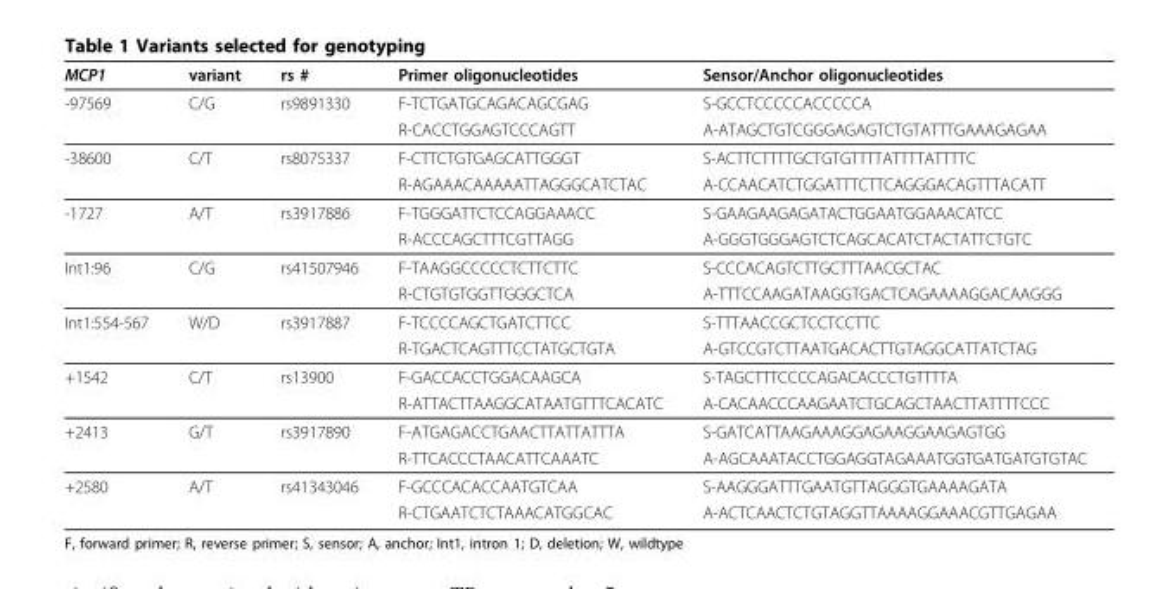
<table><thead><tr><td>MCP1</td><td>variant</td><td>rs #</td><td>Primer oligonucleotides</td><td>Sensor/Anchor oligonucleotides</td></tr></thead><tbody><tr><td rowspan="2">-97569</td><td>C/G</td><td>rs9891330</td><td>F-TCTGATGCAGACAGCGAG</td><td>S-GCCTCCCCCACCCCCA</td></tr><tr><td></td><td></td><td>R-CACCTGGAGTCCCAGTT</td><td>A-ATAGCTGTCGGGAGAGTCTGTATTTGAAAGAGAA</td></tr><tr><td rowspan="2">-38600</td><td>C/T</td><td>rs8075337</td><td>F-CTTCTGTGAGCATTGGGT</td><td>S-ACTTCTTTTGCTGTGTTTTATTTTATTTTC</td></tr><tr><td></td><td></td><td>R-AGAAACAAAAATTAGGGCATCTAC</td><td>A-CCAACATCTGGATTTCTTCAGGGACAGTTTACATT</td></tr><tr><td rowspan="2">-1727</td><td>A/T</td><td>rs3917886</td><td>F-TGGGATTCTCCAGGAAACC</td><td>S-GAAGAAGAGATACTGGAATGGAAACATCC</td></tr><tr><td></td><td></td><td>R-ACCCAGCTTTCGTTAGG</td><td>A-GGGTGGGAGTCTCAGCACATCTACTATTCTGTC</td></tr><tr><td rowspan="2">Int1:96</td><td>C/G</td><td>rs41507946</td><td>F-TAAGGCCCCCTCTTCTTC</td><td>S-CCCACAGTCTTGCTTTAACGCTAC</td></tr><tr><td></td><td></td><td>R-CTGTGTGGTTGGGCTCA</td><td>A-TTTCCAAGATAAGGTGACTCAGAAAAGGACAAGGG</td></tr><tr><td rowspan="2">Int1:554-567</td><td>W/D</td><td>rs3917887</td><td>F-TCCCCAGCTGATCTTCC</td><td>S-TTTAACCGCTCCTCCTTC</td></tr><tr><td></td><td></td><td>R-TGACTCAGTTTCCTATGCTGTA</td><td>A-GTCCGTCTTAATGACACTTGTAGGCATTATCTAG</td></tr><tr><td rowspan="2">+1542</td><td>C/T</td><td>rs13900</td><td>F-GACCACCTGGACAAGCA</td><td>S-TAGCTTTCCCCAGACACCCTGTTTTA</td></tr><tr><td></td><td></td><td>R-ATTACTTAAGGCATAATGTTTCACATC</td><td>A-CACAACCCAAGAATCTGCAGCTAACTTATTTTCCC</td></tr><tr><td rowspan="2">+2413</td><td>G/T</td><td>rs3917890</td><td>F-ATGAGACCTGAACTTATTATTTA</td><td>S-GATCATTAAGAAAGGAGAAGGAAGAGTGG</td></tr><tr><td></td><td></td><td>R-TTCACCCTAACATTCAAATC</td><td>A-AGCAAATACCTGGAGGTAGAAATGGTGATGATGTGTAC</td></tr><tr><td rowspan="2">+2580</td><td>A/T</td><td>rs41343046</td><td>F-GCCCACACCAATGTCAA</td><td>S-AAGGGATTTGAATGTTAGGGTGAAAAGATA</td></tr><tr><td></td><td></td><td>R-CTGAATCTCTAAACATGGCAC</td><td>A-ACTCAACTCTGTAGGTTAAAAGGAAACGTTGAGAA</td></tr></tbody></table>